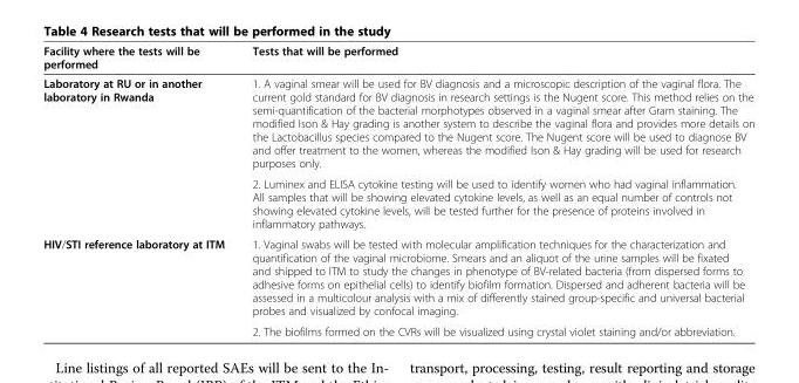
<table><thead><tr><td>Facility where the tests will be performed</td><td>Tests that will be performed</td></tr></thead><tbody><tr><td rowspan="2">Laboratory at RU or in another laboratory in Rwanda</td><td>1. A vaginal smear will be used for BV diagnosis and a microscopic description of the vaginal flora. The current gold standard for BV diagnosis in research settings is the Nugent score. This method relies on the semi-quantification of the bacterial morphotypes observed in a vaginal smear after Gram staining. The modified Ison &amp; Hay grading is another system to describe the vaginal flora and provides more details on the Lactobacillus species compared to the Nugent score. The Nugent score will be used to diagnose BV and offer treatment to the women, whereas the modified Ison &amp; Hay grading will be used for research purposes only.</td></tr><tr><td>2. Luminex and ELISA cytokine testing will be used to identify women who had vaginal inflammation. All samples that will be showing elevated cytokine levels, as well as an equal number of controls not showing elevated cytokine levels, will be tested further for the presence of proteins involved in inflammatory pathways.</td></tr><tr><td rowspan="2">HIV/STI reference laboratory at ITM</td><td>1. Vaginal swabs will be tested with molecular amplification techniques for the characterization and quantification of the vaginal microbiome. Smears and an aliquot of the urine samples will be fixated and shipped to ITM to study the changes in phenotype of BV-related bacteria (from dispersed forms to adhesive forms on epithelial cells) to identify biofilm formation. Dispersed and adherent bacteria will be assessed in a multicolour analysis with a mix of differently stained group-specific and universal bacterial probes and visualized by confocal imaging.</td></tr><tr><td>2. The biofilms formed on the CVRs will be visualized using crystal violet staining and/or abbreviation.</td></tr></tbody></table>